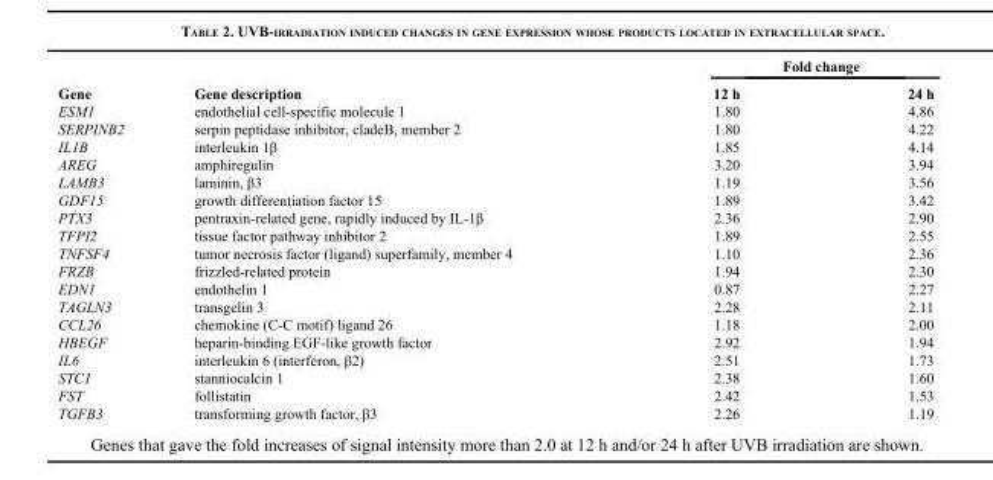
<table><thead><tr><td rowspan="2">Gene</td><td rowspan="2">Gene description</td><td colspan="2">Fold change</td></tr><tr><td>12 h</td><td>24 h</td></tr></thead><tbody><tr><td>ESM1</td><td>endothelial cell-specific molecule 1</td><td>1.80</td><td>4.86</td></tr><tr><td>SERPINB2</td><td>serpin peptidase inhibitor, cladeB, member 2</td><td>1.80</td><td>4.22</td></tr><tr><td>IL1B</td><td>interleukin 1β</td><td>1.85</td><td>4.14</td></tr><tr><td>AREG</td><td>amphiregulin</td><td>3.20</td><td>3.94</td></tr><tr><td>LAMB3</td><td>laminin, β3</td><td>1.19</td><td>3.56</td></tr><tr><td>GDF15</td><td>growth differentiation factor 15</td><td>1.89</td><td>3.42</td></tr><tr><td>PTX3</td><td>pentraxin-related gene, rapidly induced by IL-1β</td><td>2.36</td><td>2.90</td></tr><tr><td>TFPI2</td><td>tissue factor pathway inhibitor 2</td><td>1.89</td><td>2.55</td></tr><tr><td>TNFSF4</td><td>tumor necrosis factor (ligand) superfamily, member 4</td><td>1.10</td><td>2.36</td></tr><tr><td>FRZB</td><td>frizzled-related protein</td><td>1.94</td><td>2.30</td></tr><tr><td>EDN1</td><td>endothelin 1</td><td>0.87</td><td>2.27</td></tr><tr><td>TAGLN3</td><td>transgelin 3</td><td>2.28</td><td>2.11</td></tr><tr><td>CCL26</td><td>chemokine (C-C motif) ligand 26</td><td>1.18</td><td>2.00</td></tr><tr><td>HBEGF</td><td>heparin-binding EGF-like growth factor</td><td>2.92</td><td>1.94</td></tr><tr><td>IL6</td><td>interleukin 6 (interferon, β2)</td><td>2.51</td><td>1.73</td></tr><tr><td>STC1</td><td>stanniocalcin 1</td><td>2.38</td><td>1.60</td></tr><tr><td>FST</td><td>follistatin</td><td>2.42</td><td>1.53</td></tr><tr><td>TGFB3</td><td>transforming growth factor, β3</td><td>2.26</td><td>1.19</td></tr></tbody></table>